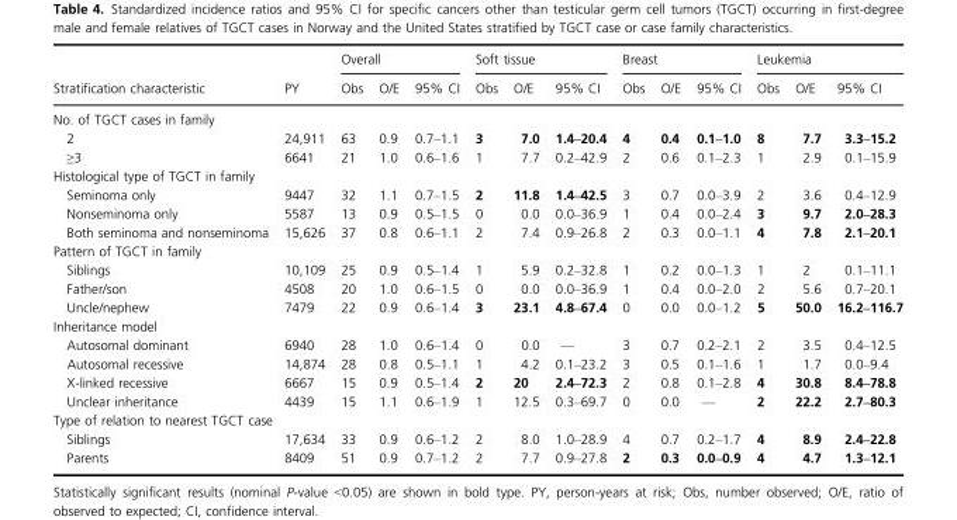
<table><thead><tr><td rowspan="2">Stratification characteristic</td><td rowspan="2">PY</td><td colspan="3">Overall</td><td colspan="3">Soft tissue</td><td colspan="3">Breast</td><td colspan="3">Leukemia</td></tr><tr><td>Obs</td><td>O/E</td><td>95% CI</td><td>Obs</td><td>O/E</td><td>95% CI</td><td>Obs</td><td>O/E</td><td>95% CI</td><td>Obs</td><td>O/E</td><td>95% CI</td></tr></thead><tbody><tr><td colspan="14">No. of TGCT cases in family</td></tr><tr><td>2</td><td>24,911</td><td>63</td><td>0.9</td><td>0.7–1.1</td><td>3</td><td>7.0</td><td>1.4–20.4</td><td>4</td><td>0.4</td><td>0.1–1.0</td><td>8</td><td>7.7</td><td>3.3–15.2</td></tr><tr><td>≥3</td><td>6641</td><td>21</td><td>1.0</td><td>0.6–1.6</td><td>1</td><td>7.7</td><td>0.2–42.9</td><td>2</td><td>0.6</td><td>0.1–2.3</td><td>1</td><td>2.9</td><td>0.1–15.9</td></tr><tr><td colspan="14">Histological type of TGCT in family</td></tr><tr><td>Seminoma only</td><td>9447</td><td>32</td><td>1.1</td><td>0.7–1.5</td><td>2</td><td>11.8</td><td>1.4–42.5</td><td>3</td><td>0.7</td><td>0.0–3.9</td><td>2</td><td>3.6</td><td>0.4–12.9</td></tr><tr><td>Nonseminoma only</td><td>5587</td><td>13</td><td>0.9</td><td>0.5–1.5</td><td>0</td><td>0.0</td><td>0.0–36.9</td><td>1</td><td>0.4</td><td>0.0–2.4</td><td>3</td><td>9.7</td><td>2.0–28.3</td></tr><tr><td>Both seminoma and nonseminoma</td><td>15,626</td><td>37</td><td>0.8</td><td>0.6–1.1</td><td>2</td><td>7.4</td><td>0.9–26.8</td><td>2</td><td>0.3</td><td>0.0–1.1</td><td>4</td><td>7.8</td><td>2.1–20.1</td></tr><tr><td colspan="14">Pattern of TGCT in family</td></tr><tr><td>Siblings</td><td>10,109</td><td>25</td><td>0.9</td><td>0.5–1.4</td><td>1</td><td>5.9</td><td>0.2–32.8</td><td>1</td><td>0.2</td><td>0.0–1.3</td><td>1</td><td>2</td><td>0.1–11.1</td></tr><tr><td>Father/son</td><td>4508</td><td>20</td><td>1.0</td><td>0.6–1.5</td><td>0</td><td>0.0</td><td>0.0–36.9</td><td>1</td><td>0.4</td><td>0.0–2.0</td><td>2</td><td>5.6</td><td>0.7–20.1</td></tr><tr><td>Uncle/nephew</td><td>7479</td><td>22</td><td>0.9</td><td>0.6–1.4</td><td>3</td><td>23.1</td><td>4.8–67.4</td><td>0</td><td>0.0</td><td>0.0–1.2</td><td>5</td><td>50.0</td><td>16.2–116.7</td></tr><tr><td colspan="14">Inheritance model</td></tr><tr><td>Autosomal dominant</td><td>6940</td><td>28</td><td>1.0</td><td>0.6–1.4</td><td>0</td><td>0.0</td><td>—</td><td>3</td><td>0.7</td><td>0.2–2.1</td><td>2</td><td>3.5</td><td>0.4–12.5</td></tr><tr><td>Autosomal recessive</td><td>14,874</td><td>28</td><td>0.8</td><td>0.5–1.1</td><td>1</td><td>4.2</td><td>0.1–23.2</td><td>3</td><td>0.5</td><td>0.1–1.6</td><td>1</td><td>1.7</td><td>0.0–9.4</td></tr><tr><td>X-linked recessive</td><td>6667</td><td>15</td><td>0.9</td><td>0.5–1.4</td><td>2</td><td>20</td><td>2.4–72.3</td><td>2</td><td>0.8</td><td>0.1–2.8</td><td>4</td><td>30.8</td><td>8.4–78.8</td></tr><tr><td>Unclear inheritance</td><td>4439</td><td>15</td><td>1.1</td><td>0.6–1.9</td><td>1</td><td>12.5</td><td>0.3–69.7</td><td>0</td><td>0.0</td><td>—</td><td>2</td><td>22.2</td><td>2.7–80.3</td></tr><tr><td colspan="14">Type of relation to nearest TGCT case</td></tr><tr><td>Siblings</td><td>17,634</td><td>33</td><td>0.9</td><td>0.6–1.2</td><td>2</td><td>8.0</td><td>1.0–28.9</td><td>4</td><td>0.7</td><td>0.2–1.7</td><td>4</td><td>8.9</td><td>2.4–22.8</td></tr><tr><td>Parents</td><td>8409</td><td>51</td><td>0.9</td><td>0.7–1.2</td><td>2</td><td>7.7</td><td>0.9–27.8</td><td>2</td><td>0.3</td><td>0.0–0.9</td><td>4</td><td>4.7</td><td>1.3–12.1</td></tr></tbody></table>